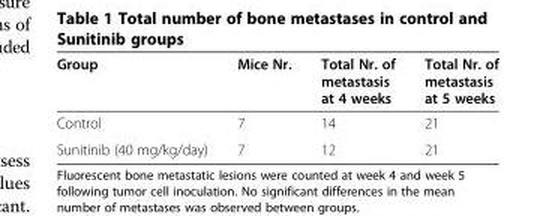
<table><thead><tr><td>Group</td><td>Mice Nr.</td><td>Total Nr. of metastasis at 4 weeks</td><td>Total Nr. of metastasis at 5 weeks</td></tr></thead><tbody><tr><td>Control</td><td>7</td><td>14</td><td>21</td></tr><tr><td>Sunitinib (40 mg/kg/day)</td><td>7</td><td>12</td><td>21</td></tr></tbody></table>